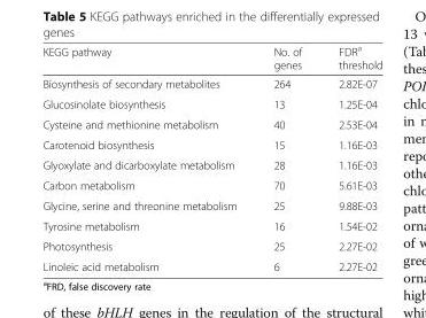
<table><thead><tr><td>KEGG pathway</td><td>No. of genes</td><td>FDR<sup>a</sup> threshold</td></tr></thead><tbody><tr><td>Biosynthesis of secondary metabolites</td><td>264</td><td>2.82E-07</td></tr><tr><td>Glucosinolate biosynthesis</td><td>13</td><td>1.25E-04</td></tr><tr><td>Cysteine and methionine metabolism</td><td>40</td><td>2.53E-04</td></tr><tr><td>Carotenoid biosynthesis</td><td>15</td><td>1.16E-03</td></tr><tr><td>Glyoxylate and dicarboxylate metabolism</td><td>28</td><td>1.16E-03</td></tr><tr><td>Carbon metabolism</td><td>70</td><td>5.61E-03</td></tr><tr><td>Glycine, serine and threonine metabolism</td><td>25</td><td>9.88E-03</td></tr><tr><td>Tyrosine metabolism</td><td>16</td><td>1.54E-02</td></tr><tr><td>Photosynthesis</td><td>25</td><td>2.27E-02</td></tr><tr><td>Linoleic acid metabolism</td><td>6</td><td>2.27E-02</td></tr></tbody></table>